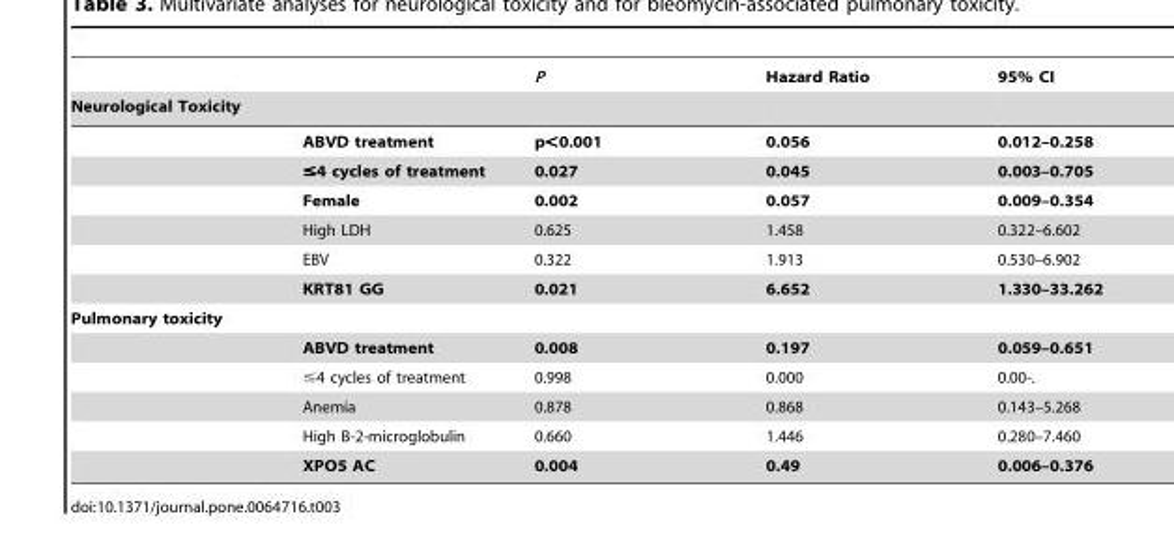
<table><thead><tr><td rowspan="2">Neurological Toxicity</td><td rowspan="2"></td><td rowspan="2">P</td><td rowspan="2">Hazard Ratio</td><td rowspan="2">95% CI</td></tr><tr></tr></thead><tbody><tr><td></td><td>ABVD treatment</td><td>p&lt;0.001</td><td>0.056</td><td>0.012–0.258</td></tr><tr><td></td><td>≤4 cycles of treatment</td><td>0.027</td><td>0.045</td><td>0.003–0.705</td></tr><tr><td></td><td>Female</td><td>0.002</td><td>0.057</td><td>0.009–0.354</td></tr><tr><td></td><td>High LDH</td><td>0.625</td><td>1.458</td><td>0.322–6.602</td></tr><tr><td></td><td>EBV</td><td>0.322</td><td>1.913</td><td>0.530–6.902</td></tr><tr><td></td><td>KRT81 GG</td><td>0.021</td><td>6.652</td><td>1.330–33.262</td></tr><tr><td colspan="5">Pulmonary toxicity</td></tr><tr><td></td><td>ABVD treatment</td><td>0.008</td><td>0.197</td><td>0.059–0.651</td></tr><tr><td></td><td>≤4 cycles of treatment</td><td>0.998</td><td>0.000</td><td>0.00-.</td></tr><tr><td></td><td>Anemia</td><td>0.878</td><td>0.868</td><td>0.143–5.268</td></tr><tr><td></td><td>High B-2-microglobulin</td><td>0.660</td><td>1.446</td><td>0.280–7.460</td></tr><tr><td></td><td>XPO5 AC</td><td>0.004</td><td>0.49</td><td>0.006–0.376</td></tr></tbody></table>